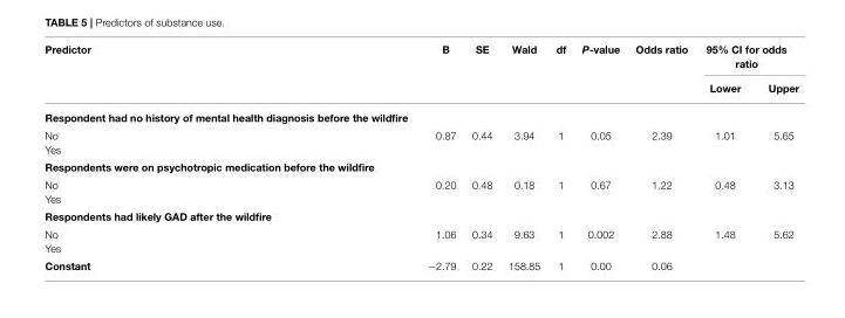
<table><thead><tr><td rowspan="2">Predictor</td><td rowspan="2">B</td><td rowspan="2">SE</td><td rowspan="2">Wald</td><td rowspan="2">df</td><td rowspan="2">P-value</td><td rowspan="2">Odds ratio</td><td colspan="2">95% CI for odds ratio</td></tr><tr><td>Lower</td><td>Upper</td></tr></thead><tbody><tr><td colspan="9">Respondent had no history of mental health diagnosis before the wildfire</td></tr><tr><td>No Yes</td><td>0.87</td><td>0.44</td><td>3.94</td><td>1</td><td>0.05</td><td>2.39</td><td>1.01</td><td>5.65</td></tr><tr><td colspan="9">Respondents were on psychotropic medication before the wildfire</td></tr><tr><td>No Yes</td><td>0.20</td><td>0.48</td><td>0.18</td><td>1</td><td>0.67</td><td>1.22</td><td>0.48</td><td>3.13</td></tr><tr><td colspan="9">Respondents had likely GAD after the wildfire</td></tr><tr><td>No Yes</td><td>1.06</td><td>0.34</td><td>9.63</td><td>1</td><td>0.002</td><td>2.88</td><td>1.48</td><td>5.62</td></tr><tr><td>Constant</td><td>−2.79</td><td>0.22</td><td>158.85</td><td>1</td><td>0.00</td><td>0.06</td><td></td><td></td></tr></tbody></table>